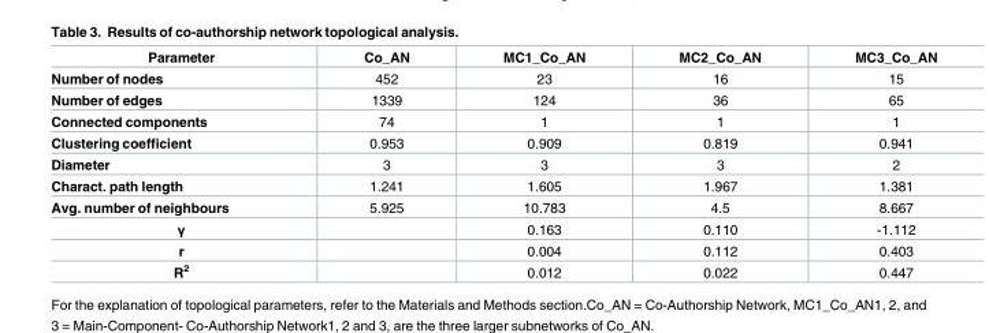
<table><thead><tr><td>Parameter</td><td>Co_AN</td><td>MC1_Co_AN</td><td>MC2_Co_AN</td><td>MC3_Co_AN</td></tr></thead><tbody><tr><td>Number of nodes</td><td>452</td><td>23</td><td>16</td><td>15</td></tr><tr><td>Number of edges</td><td>1339</td><td>124</td><td>36</td><td>65</td></tr><tr><td>Connected components</td><td>74</td><td>1</td><td>1</td><td>1</td></tr><tr><td>Clustering coefficient</td><td>0.953</td><td>0.909</td><td>0.819</td><td>0.941</td></tr><tr><td>Diameter</td><td>3</td><td>3</td><td>3</td><td>2</td></tr><tr><td>Charact. path length</td><td>1.241</td><td>1.605</td><td>1.967</td><td>1.381</td></tr><tr><td>Avg. number of neighbours</td><td>5.925</td><td>10.783</td><td>4.5</td><td>8.667</td></tr><tr><td>γ</td><td></td><td>0.163</td><td>0.110</td><td>-1.112</td></tr><tr><td>r</td><td></td><td>0.004</td><td>0.112</td><td>0.403</td></tr><tr><td>R<sup>2</sup></td><td></td><td>0.012</td><td>0.022</td><td>0.447</td></tr></tbody></table>